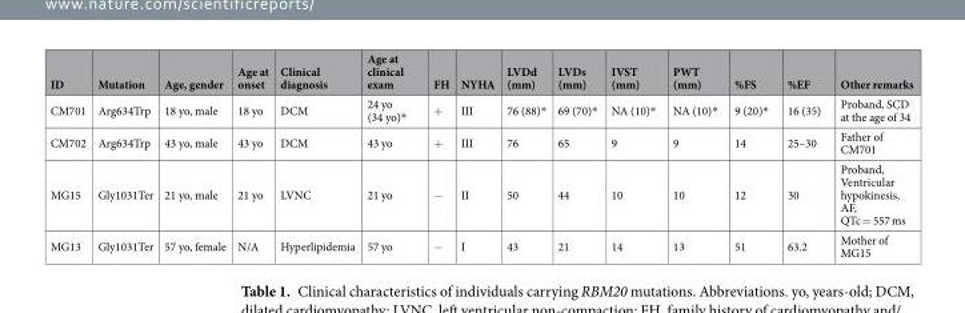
<table><thead><tr><td>ID</td><td>Mutation</td><td>Age, gender</td><td>Age at onset</td><td>Clinical diagnosis</td><td>Age at clinical exam</td><td>FH</td><td>NYHA</td><td>LVDd (mm)</td><td>LVDs (mm)</td><td>IVST (mm)</td><td>PWT (mm)</td><td>%FS</td><td>%EF</td><td>Other remarks</td></tr></thead><tbody><tr><td>CM701</td><td>Arg634Trp</td><td>18 yo, male</td><td>18 yo</td><td>DCM</td><td>24 yo (34 yo)*</td><td>+</td><td>III</td><td>76 (88)*</td><td>69 (70)*</td><td>NA (10)*</td><td>NA (10)*</td><td>9 (20)*</td><td>16 (35)</td><td>Proband, SCD at the age of 34</td></tr><tr><td>CM702</td><td>Arg634Trp</td><td>43 yo, male</td><td>43 yo</td><td>DCM</td><td>43 yo</td><td>+</td><td>III</td><td>76</td><td>65</td><td>9</td><td>9</td><td>14</td><td>25–30</td><td>Father of CM701</td></tr><tr><td>MG15</td><td>Gly1031Ter</td><td>21 yo, male</td><td>21 yo</td><td>LVNC</td><td>21 yo</td><td>−</td><td>II</td><td>50</td><td>44</td><td>10</td><td>10</td><td>12</td><td>30</td><td>Proband, Ventricular hypokinesis, AF, QTc = 557 ms</td></tr><tr><td>MG13</td><td>Gly1031Ter</td><td>57 yo, female</td><td>N/A</td><td>Hyperlipidemia</td><td>57 yo</td><td>−</td><td>I</td><td>43</td><td>21</td><td>14</td><td>13</td><td>51</td><td>63.2</td><td>Mother of MG15</td></tr></tbody></table>